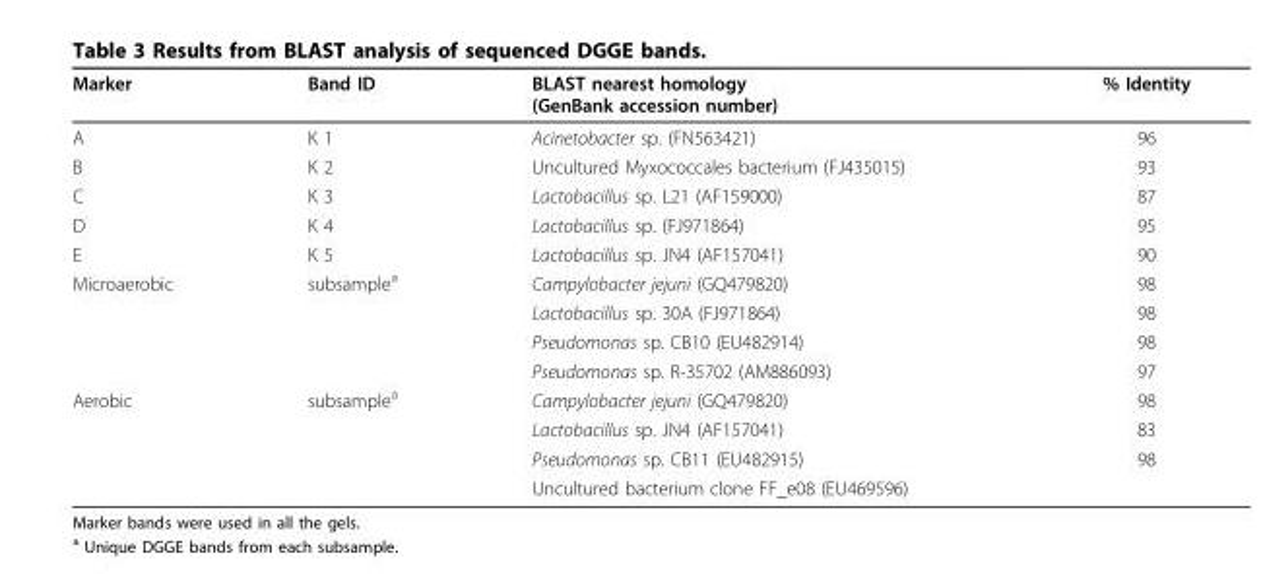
<table><thead><tr><td>Marker</td><td>Band ID</td><td>BLAST nearest homology (GenBank accession number)</td><td>% Identity</td></tr></thead><tbody><tr><td>A</td><td>K 1</td><td>Acinetobacter sp. (FN563421)</td><td>96</td></tr><tr><td>B</td><td>K 2</td><td>Uncultured Myxococcales bacterium (FJ435015)</td><td>93</td></tr><tr><td>C</td><td>K 3</td><td>Lactobacillus sp. L21 (AF159000)</td><td>87</td></tr><tr><td>D</td><td>K 4</td><td>Lactobacillus sp. (FJ971864)</td><td>95</td></tr><tr><td>E</td><td>K 5</td><td>Lactobacillus sp. JN4 (AF157041)</td><td>90</td></tr><tr><td rowspan="4">Microaerobic</td><td>subsample<sup>a</sup></td><td>Campylobacter jejuni (GQ479820)</td><td>98</td></tr><tr><td></td><td>Lactobacillus sp. 30A (FJ971864)</td><td>98</td></tr><tr><td></td><td>Pseudomonas sp. CB10 (EU482914)</td><td>98</td></tr><tr><td></td><td>Pseudomonas sp. R-35702 (AM886093)</td><td>97</td></tr><tr><td rowspan="4">Aerobic</td><td>subsample<sup>a</sup></td><td>Campylobacter jejuni (GQ479820)</td><td>98</td></tr><tr><td></td><td>Lactobacillus sp. JN4 (AF157041)</td><td>83</td></tr><tr><td></td><td>Pseudomonas sp. CB11 (EU482915)</td><td>98</td></tr><tr><td></td><td>Uncultured bacterium clone FF_e08 (EU469596)</td><td></td></tr></tbody></table>